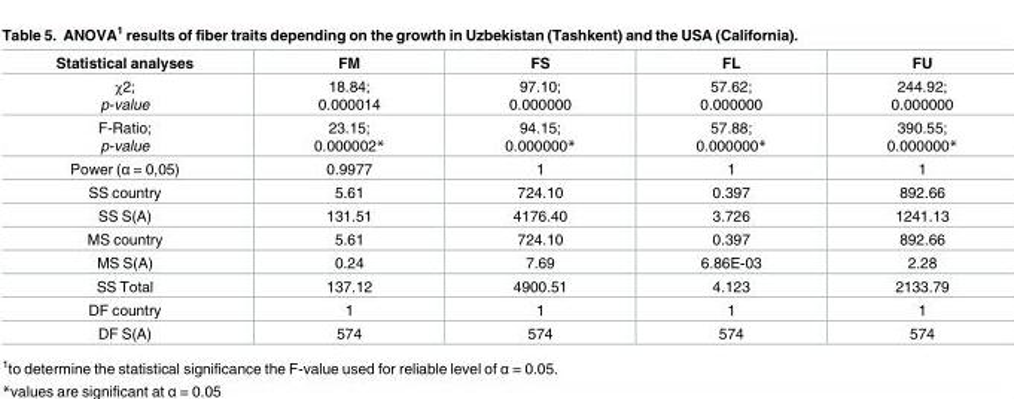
<table><thead><tr><td>Statistical analyses</td><td>FM</td><td>FS</td><td>FL</td><td>FU</td></tr></thead><tbody><tr><td>χ2; p-value</td><td>18.84; 0.000014</td><td>97.10; 0.000000</td><td>57.62; 0.000000</td><td>244.92; 0.000000</td></tr><tr><td>F-Ratio; p-value</td><td>23.15; 0.000002*</td><td>94.15; 0.000000*</td><td>57.88; 0.000000*</td><td>390.55; 0.000000*</td></tr><tr><td>Power (α = 0,05)</td><td>0.9977</td><td>1</td><td>1</td><td>1</td></tr><tr><td>SS country</td><td>5.61</td><td>724.10</td><td>0.397</td><td>892.66</td></tr><tr><td>SS S(A)</td><td>131.51</td><td>4176.40</td><td>3.726</td><td>1241.13</td></tr><tr><td>MS country</td><td>5.61</td><td>724.10</td><td>0.397</td><td>892.66</td></tr><tr><td>MS S(A)</td><td>0.24</td><td>7.69</td><td>6.86E-03</td><td>2.28</td></tr><tr><td>SS Total</td><td>137.12</td><td>4900.51</td><td>4.123</td><td>2133.79</td></tr><tr><td>DF country</td><td>1</td><td>1</td><td>1</td><td>1</td></tr><tr><td>DF S(A)</td><td>574</td><td>574</td><td>574</td><td>574</td></tr></tbody></table>